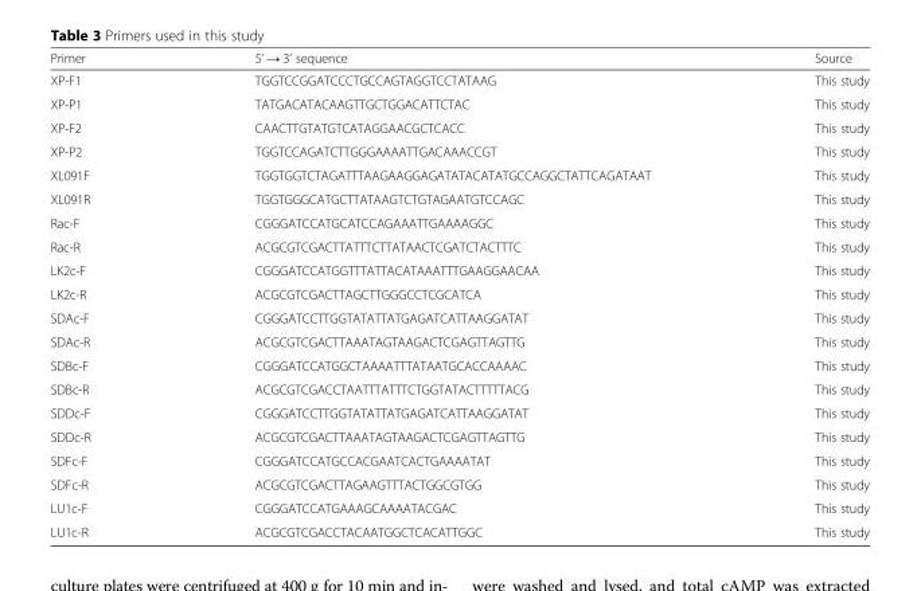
<table><thead><tr><td>Primer</td><td>5’ → 3’ sequence</td><td>Source</td></tr></thead><tbody><tr><td>XP-F1</td><td>TGGTCCGGATCCCTGCCAGTAGGTCCTATAAG</td><td>This study</td></tr><tr><td>XP-P1</td><td>TATGACATACAAGTTGCTGGACATTCTAC</td><td>This study</td></tr><tr><td>XP-F2</td><td>CAACTTGTATGTCATAGGAACGCTCACC</td><td>This study</td></tr><tr><td>XP-P2</td><td>TGGTCCAGATCTTGGGAAAATTGACAAACCGT</td><td>This study</td></tr><tr><td>XL091F</td><td>TGGTGGTCTAGATTTAAGAAGGAGATATACATATGCCAGGCTATTCAGATAAT</td><td>This study</td></tr><tr><td>XL091R</td><td>TGGTGGGCATGCTTATAAGTCTGTAGAATGTCCAGC</td><td>This study</td></tr><tr><td>Rac-F</td><td>CGGGATCCATGCATCCAGAAATTGAAAAGGC</td><td>This study</td></tr><tr><td>Rac-R</td><td>ACGCGTCGACTTATTTCTTATAACTCGATCTACTTTC</td><td>This study</td></tr><tr><td>LK2c-F</td><td>CGGGATCCATGGTTTATTACATAAATTTGAAGGAACAA</td><td>This study</td></tr><tr><td>LK2c-R</td><td>ACGCGTCGACTTAGCTTGGGCCTCGCATCA</td><td>This study</td></tr><tr><td>SDAc-F</td><td>CGGGATCCTTGGTATATTATGAGATCATTAAGGATAT</td><td>This study</td></tr><tr><td>SDAc-R</td><td>ACGCGTCGACTTAAATAGTAAGACTCGAGTTAGTTG</td><td>This study</td></tr><tr><td>SDBc-F</td><td>CGGGATCCATGGCTAAAATTTATAATGCACCAAAAC</td><td>This study</td></tr><tr><td>SDBc-R</td><td>ACGCGTCGACCTAATTTATTTCTGGTATACTTTTTACG</td><td>This study</td></tr><tr><td>SDDc-F</td><td>CGGGATCCTTGGTATATTATGAGATCATTAAGGATAT</td><td>This study</td></tr><tr><td>SDDc-R</td><td>ACGCGTCGACTTAAATAGTAAGACTCGAGTTAGTTG</td><td>This study</td></tr><tr><td>SDFc-F</td><td>CGGGATCCATGCCACGAATCACTGAAAATAT</td><td>This study</td></tr><tr><td>SDFc-R</td><td>ACGCGTCGACTTAGAAGTTTACTGGCGTGG</td><td>This study</td></tr><tr><td>LU1c-F</td><td>CGGGATCCATGAAAGCAAAATACGAC</td><td>This study</td></tr><tr><td>LU1c-R</td><td>ACGCGTCGACCTACAATGGCTCACATTGGC</td><td>This study</td></tr></tbody></table>